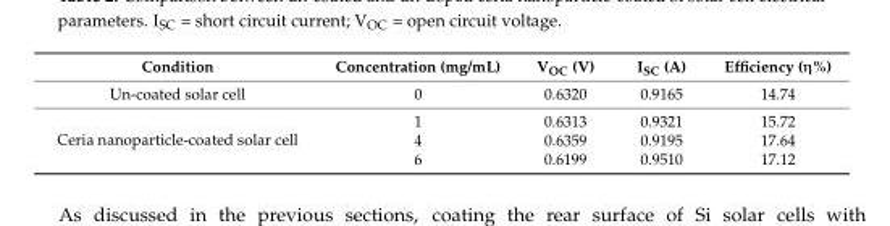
<table><thead><tr><td>Condition</td><td>Concentration (mg/mL)</td><td>V<sub>OC</sub> (V)</td><td>I<sub>SC</sub> (A)</td><td>Efficiency (η%)</td></tr></thead><tbody><tr><td>Un-coated solar cell</td><td>0</td><td>0.6320</td><td>0.9165</td><td>14.74</td></tr><tr><td rowspan="3">Ceria nanoparticle-coated solar cell</td><td>1</td><td>0.6313</td><td>0.9321</td><td>15.72</td></tr><tr><td>4</td><td>0.6359</td><td>0.9195</td><td>17.64</td></tr><tr><td>6</td><td>0.6199</td><td>0.9510</td><td>17.12</td></tr></tbody></table>